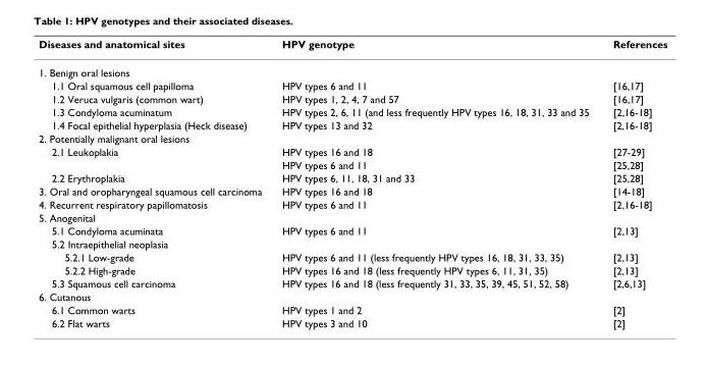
<table><thead><tr><td>Diseases and anatomical sites</td><td>HPV genotype</td><td>References</td></tr></thead><tbody><tr><td colspan="3">1. Benign oral lesions</td></tr><tr><td>1.1 Oral squamous cell papilloma</td><td>HPV types 6 and 11</td><td>[16,17]</td></tr><tr><td>1.2 Veruca vulgaris (common wart)</td><td>HPV types 1, 2, 4, 7 and 57</td><td>[16,17]</td></tr><tr><td>1.3 Condyloma acuminatum</td><td>HPV types 2, 6, 11 (and less frequently HPV types 16, 18, 31, 33 and 35</td><td>[2,16-18]</td></tr><tr><td>1.4 Focal epithelial hyperplasia (Heck disease)</td><td>HPV types 13 and 32</td><td>[2,16-18]</td></tr><tr><td colspan="3">2. Potentially malignant oral lesions</td></tr><tr><td rowspan="2">2.1 Leukoplakia</td><td>HPV types 16 and 18</td><td>[27-29]</td></tr><tr><td>HPV types 6 and 11</td><td>[25,28]</td></tr><tr><td>2.2 Erythroplakia</td><td>HPV types 6, 11, 18, 31 and 33</td><td>[25,28]</td></tr><tr><td>3. Oral and oropharyngeal squamous cell carcinoma</td><td>HPV types 16 and 18</td><td>[14-18]</td></tr><tr><td>4. Recurrent respiratory papillomatosis</td><td>HPV types 6 and 11</td><td>[2,16-18]</td></tr><tr><td colspan="3">5. Anogenital</td></tr><tr><td>5.1 Condyloma acuminata</td><td>HPV types 6 and 11</td><td>[2,13]</td></tr><tr><td colspan="3">5.2 Intraepithelial neoplasia</td></tr><tr><td>5.2.1 Low-grade</td><td>HPV types 6 and 11 (less frequently HPV types 16, 18, 31, 33, 35)</td><td>[2,13]</td></tr><tr><td>5.2.2 High-grade</td><td>HPV types 16 and 18 (less frequently HPV types 6, 11, 31, 35)</td><td>[2,13]</td></tr><tr><td>5.3 Squamous cell carcinoma</td><td>HPV types 16 and 18 (less frequently 31, 33, 35, 39, 45, 51, 52, 58)</td><td>[2,6,13]</td></tr><tr><td colspan="3">6. Cutanous</td></tr><tr><td>6.1 Common warts</td><td>HPV types 1 and 2</td><td>[2]</td></tr><tr><td>6.2 Flat warts</td><td>HPV types 3 and 10</td><td>[2]</td></tr></tbody></table>